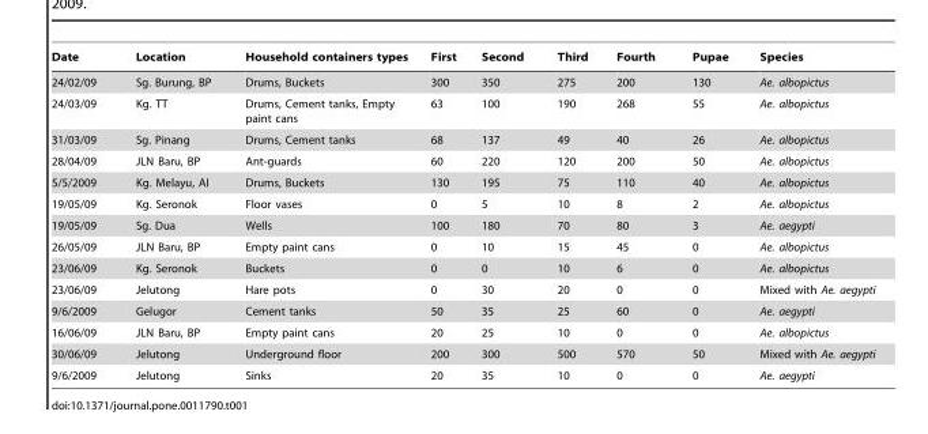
<table><thead><tr><td>Date</td><td>Location</td><td>Household containers types</td><td>First</td><td>Second</td><td>Third</td><td>Fourth</td><td>Pupae</td><td>Species</td></tr></thead><tbody><tr><td>24/02/09</td><td>Sg. Burung, BP</td><td>Drums, Buckets</td><td>300</td><td>350</td><td>275</td><td>200</td><td>130</td><td>Ae. albopictus</td></tr><tr><td>24/03/09</td><td>Kg. TT</td><td>Drums, Cement tanks, Empty paint cans</td><td>63</td><td>100</td><td>190</td><td>268</td><td>55</td><td>Ae. albopictus</td></tr><tr><td>31/03/09</td><td>Sg. Pinang</td><td>Drums, Cement tanks</td><td>68</td><td>137</td><td>49</td><td>40</td><td>26</td><td>Ae. albopictus</td></tr><tr><td>28/04/09</td><td>JLN Baru, BP</td><td>Ant-guards</td><td>60</td><td>220</td><td>120</td><td>200</td><td>50</td><td>Ae. albopictus</td></tr><tr><td>5/5/2009</td><td>Kg. Melayu, AI</td><td>Drums, Buckets</td><td>130</td><td>195</td><td>75</td><td>110</td><td>40</td><td>Ae. albopictus</td></tr><tr><td>19/05/09</td><td>Kg. Seronok</td><td>Floor vases</td><td>0</td><td>5</td><td>10</td><td>8</td><td>2</td><td>Ae. albopictus</td></tr><tr><td>19/05/09</td><td>Sg. Dua</td><td>Wells</td><td>100</td><td>180</td><td>70</td><td>80</td><td>3</td><td>Ae. aegypti</td></tr><tr><td>26/05/09</td><td>JLN Baru, BP</td><td>Empty paint cans</td><td>0</td><td>10</td><td>15</td><td>45</td><td>0</td><td>Ae. albopictus</td></tr><tr><td>23/06/09</td><td>Kg. Seronok</td><td>Buckets</td><td>0</td><td>0</td><td>10</td><td>6</td><td>0</td><td>Ae. albopictus</td></tr><tr><td>23/06/09</td><td>Jelutong</td><td>Hare pots</td><td>0</td><td>30</td><td>20</td><td>0</td><td>0</td><td>Mixed with Ae. aegypti</td></tr><tr><td>9/6/2009</td><td>Gelugor</td><td>Cement tanks</td><td>50</td><td>35</td><td>25</td><td>60</td><td>0</td><td>Ae. aegypti</td></tr><tr><td>16/06/09</td><td>JLN Baru, BP</td><td>Empty paint cans</td><td>20</td><td>25</td><td>10</td><td>0</td><td>0</td><td>Ae. albopictus</td></tr><tr><td>30/06/09</td><td>Jelutong</td><td>Underground floor</td><td>200</td><td>300</td><td>500</td><td>570</td><td>50</td><td>Mixed with Ae. aegypti</td></tr><tr><td>9/6/2009</td><td>Jelutong</td><td>Sinks</td><td>20</td><td>35</td><td>10</td><td>0</td><td>0</td><td>Ae. aegypti</td></tr></tbody></table>